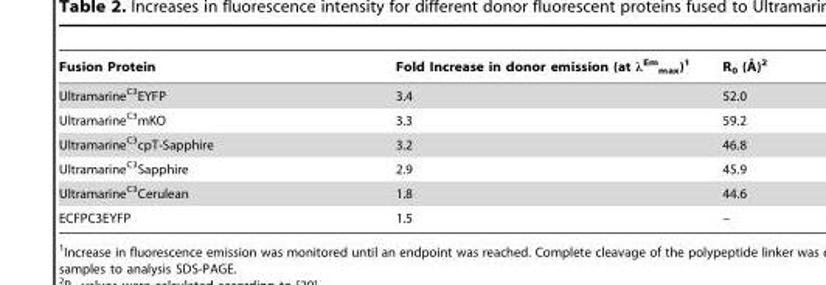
<table><thead><tr><td>Fusion Protein</td><td>Fold Increase in donor emission (at λ<sup>Em</sup> <sub>max</sub>)<sup>1</sup></td><td>R0 (A˚ )2</td></tr></thead><tbody><tr><td>Ultramarine<sup>C3</sup>EYFP</td><td>3.4</td><td>52.0</td></tr><tr><td>Ultramarine<sup>C3</sup>mKO</td><td>3.3</td><td>59.2</td></tr><tr><td>Ultramarine<sup>C3</sup>cpT-Sapphire</td><td>3.2</td><td>46.8</td></tr><tr><td>Ultramarine<sup>C3</sup>Sapphire</td><td>2.9</td><td>45.9</td></tr><tr><td>Ultramarine<sup>C3</sup>Cerulean</td><td>1.8</td><td>44.6</td></tr><tr><td>ECFPC3EYFP</td><td>1.5</td><td>–</td></tr></tbody></table>